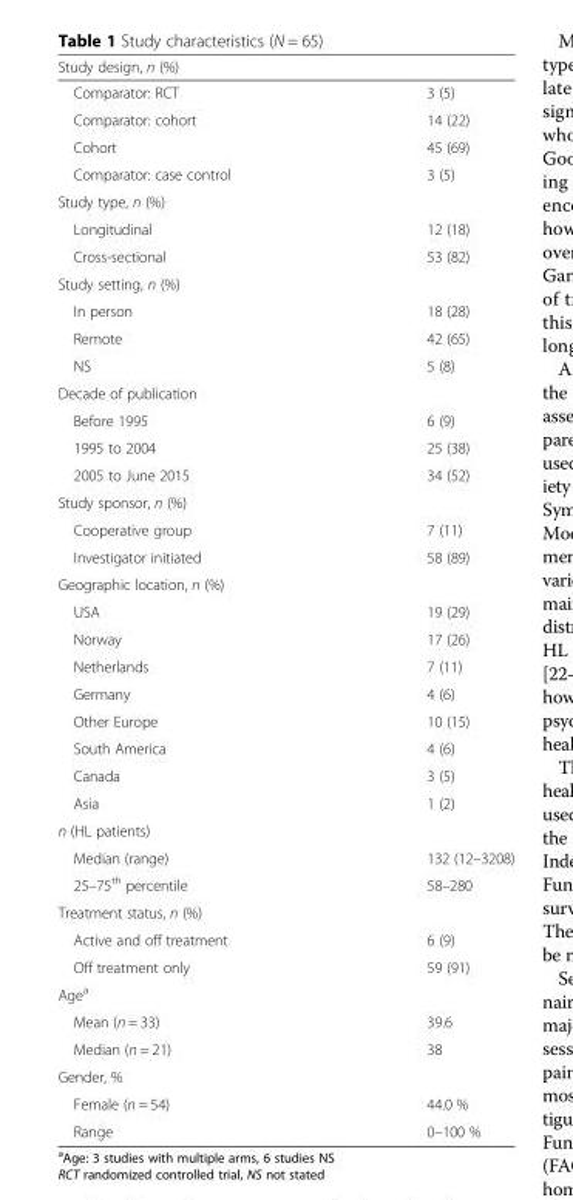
<table><thead><tr><td colspan="2">Study design, n (%)</td></tr><tr><td>Comparator: RCT</td><td>3 (5)</td></tr></thead><tbody><tr><td>Comparator: cohort</td><td>14 (22)</td></tr><tr><td>Cohort</td><td>45 (69)</td></tr><tr><td>Comparator: case control</td><td>3 (5)</td></tr><tr><td colspan="2">Study type, n (%)</td></tr><tr><td>Longitudinal</td><td>12 (18)</td></tr><tr><td>Cross-sectional</td><td>53 (82)</td></tr><tr><td colspan="2">Study setting, n (%)</td></tr><tr><td>In person</td><td>18 (28)</td></tr><tr><td>Remote</td><td>42 (65)</td></tr><tr><td>NS</td><td>5 (8)</td></tr><tr><td colspan="2">Decade of publication</td></tr><tr><td>Before 1995</td><td>6 (9)</td></tr><tr><td>1995 to 2004</td><td>25 (38)</td></tr><tr><td>2005 to June 2015</td><td>34 (52)</td></tr><tr><td colspan="2">Study sponsor, n (%)</td></tr><tr><td>Cooperative group</td><td>7 (11)</td></tr><tr><td>Investigator initiated</td><td>58 (89)</td></tr><tr><td colspan="2">Geographic location, n (%)</td></tr><tr><td>USA</td><td>19 (29)</td></tr><tr><td>Norway</td><td>17 (26)</td></tr><tr><td>Netherlands</td><td>7 (11)</td></tr><tr><td>Germany</td><td>4 (6)</td></tr><tr><td>Other Europe</td><td>10 (15)</td></tr><tr><td>South America</td><td>4 (6)</td></tr><tr><td>Canada</td><td>3 (5)</td></tr><tr><td>Asia</td><td>1 (2)</td></tr><tr><td colspan="2">n (HL patients)</td></tr><tr><td>Median (range)</td><td>132 (12–3208)</td></tr><tr><td>25–75<sup>th</sup> percentile</td><td>58–280</td></tr><tr><td colspan="2">Treatment status, n (%)</td></tr><tr><td>Active and off treatment</td><td>6 (9)</td></tr><tr><td>Off treatment only</td><td>59 (91)</td></tr><tr><td colspan="2">Age<sup>a</sup></td></tr><tr><td>Mean (n = 33)</td><td>39.6</td></tr><tr><td>Median (n = 21)</td><td>38</td></tr><tr><td colspan="2">Gender, %</td></tr><tr><td>Female (n = 54)</td><td>44.0 %</td></tr><tr><td>Range</td><td>0–100 %</td></tr></tbody></table>